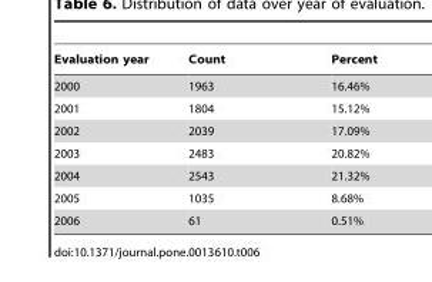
<table><thead><tr><td>Evaluation year</td><td>Count</td><td>Percent</td></tr></thead><tbody><tr><td>2000</td><td>1963</td><td>16.46%</td></tr><tr><td>2001</td><td>1804</td><td>15.12%</td></tr><tr><td>2002</td><td>2039</td><td>17.09%</td></tr><tr><td>2003</td><td>2483</td><td>20.82%</td></tr><tr><td>2004</td><td>2543</td><td>21.32%</td></tr><tr><td>2005</td><td>1035</td><td>8.68%</td></tr><tr><td>2006</td><td>61</td><td>0.51%</td></tr></tbody></table>